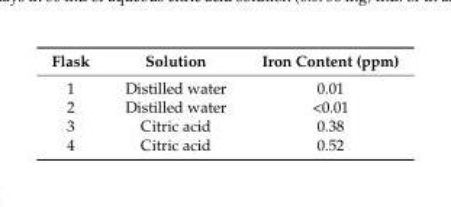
<table><thead><tr><td>Flask</td><td>Solution</td><td>Iron Content (ppm)</td></tr></thead><tbody><tr><td>1</td><td>Distilled water</td><td>0.01</td></tr><tr><td>2</td><td>Distilled water</td><td>&lt;0.01</td></tr><tr><td>3</td><td>Citric acid</td><td>0.38</td></tr><tr><td>4</td><td>Citric acid</td><td>0.52</td></tr></tbody></table>